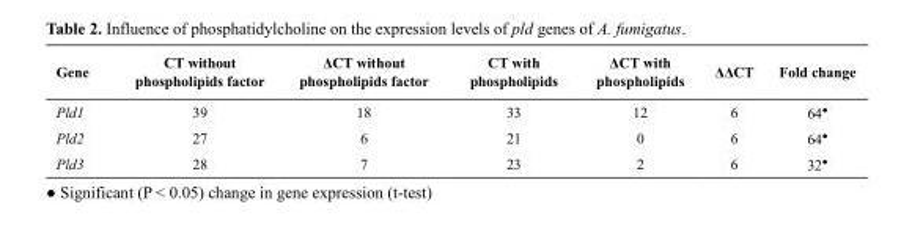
<table><thead><tr><td>Gene</td><td>CT without phospholipids factor</td><td>ΔCT without phospholipids factor</td><td>CT with phospholipids</td><td>ΔCT with phospholipids</td><td>ΔΔCT</td><td>fold change</td></tr></thead><tbody><tr><td>Pld1</td><td>39</td><td>18</td><td>33</td><td>12</td><td>6</td><td>64●</td></tr><tr><td>Pld2</td><td>27</td><td>6</td><td>21</td><td>0</td><td>6</td><td>64●</td></tr><tr><td>Pld3</td><td>28</td><td>7</td><td>23</td><td>2</td><td>6</td><td>32●</td></tr></tbody></table>